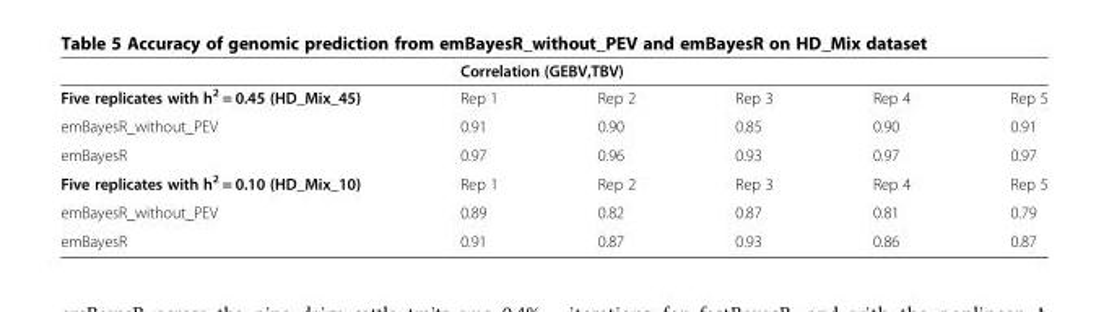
<table><thead><tr><td rowspan="2">Five replicates with h<sup>2</sup> = 0.45 (HD_Mix_45)</td><td colspan="5">Correlation (GEBV,TBV)</td></tr><tr><td>Rep 1</td><td>Rep 2</td><td>Rep 3</td><td>Rep 4</td><td>Rep 5</td></tr></thead><tbody><tr><td>emBayesR_without_PEV</td><td>0.91</td><td>0.90</td><td>0.85</td><td>0.90</td><td>0.91</td></tr><tr><td>emBayesR</td><td>0.97</td><td>0.96</td><td>0.93</td><td>0.97</td><td>0.97</td></tr><tr><td>Five replicates with h<sup>2</sup> = 0.10 (HD_Mix_10)</td><td>Rep 1</td><td>Rep 2</td><td>Rep 3</td><td>Rep 4</td><td>Rep 5</td></tr><tr><td>emBayesR_without_PEV</td><td>0.89</td><td>0.82</td><td>0.87</td><td>0.81</td><td>0.79</td></tr><tr><td>emBayesR</td><td>0.91</td><td>0.87</td><td>0.93</td><td>0.86</td><td>0.87</td></tr></tbody></table>